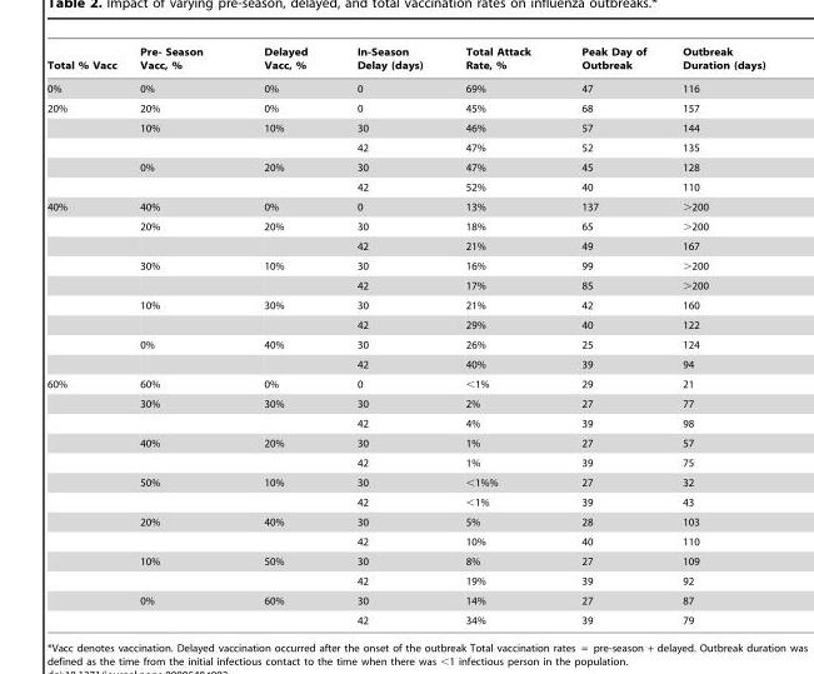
<table><thead><tr><td>Total % Vacc</td><td>Pre- Season Vacc, %</td><td>Delayed Vacc, %</td><td>In-Season Delay (days)</td><td>Total Attack Rate, %</td><td>Peak Day of Outbreak</td><td>Outbreak Duration (days)</td></tr></thead><tbody><tr><td>0%</td><td>0%</td><td>0%</td><td>0</td><td>69%</td><td>47</td><td>116</td></tr><tr><td rowspan="5">20%</td><td>20%</td><td>0%</td><td>0</td><td>45%</td><td>68</td><td>157</td></tr><tr><td>10%</td><td>10%</td><td>30</td><td>46%</td><td>57</td><td>144</td></tr><tr><td></td><td></td><td>42</td><td>47%</td><td>52</td><td>135</td></tr><tr><td>0%</td><td>20%</td><td>30</td><td>47%</td><td>45</td><td>128</td></tr><tr><td></td><td></td><td>42</td><td>52%</td><td>40</td><td>110</td></tr><tr><td rowspan="9">40%</td><td>40%</td><td>0%</td><td>0</td><td>13%</td><td>137</td><td>&gt;200</td></tr><tr><td>20%</td><td>20%</td><td>30</td><td>18%</td><td>65</td><td>&gt;200</td></tr><tr><td></td><td></td><td>42</td><td>21%</td><td>49</td><td>167</td></tr><tr><td>30%</td><td>10%</td><td>30</td><td>16%</td><td>99</td><td>&gt;200</td></tr><tr><td></td><td></td><td>42</td><td>17%</td><td>85</td><td>&gt;200</td></tr><tr><td>10%</td><td>30%</td><td>30</td><td>21%</td><td>42</td><td>160</td></tr><tr><td></td><td></td><td>42</td><td>29%</td><td>40</td><td>122</td></tr><tr><td>0%</td><td>40%</td><td>30</td><td>26%</td><td>25</td><td>124</td></tr><tr><td></td><td></td><td>42</td><td>40%</td><td>39</td><td>94</td></tr><tr><td rowspan="13">60%</td><td>60%</td><td>0%</td><td>0</td><td>&lt;1%</td><td>29</td><td>21</td></tr><tr><td>30%</td><td>30%</td><td>30</td><td>2%</td><td>27</td><td>77</td></tr><tr><td></td><td></td><td>42</td><td>4%</td><td>39</td><td>98</td></tr><tr><td>40%</td><td>20%</td><td>30</td><td>1%</td><td>27</td><td>57</td></tr><tr><td></td><td></td><td>42</td><td>1%</td><td>39</td><td>75</td></tr><tr><td>50%</td><td>10%</td><td>30</td><td>&lt;1%%</td><td>27</td><td>32</td></tr><tr><td></td><td></td><td>42</td><td>&lt;1%</td><td>39</td><td>43</td></tr><tr><td>20%</td><td>40%</td><td>30</td><td>5%</td><td>28</td><td>103</td></tr><tr><td></td><td></td><td>42</td><td>10%</td><td>40</td><td>110</td></tr><tr><td>10%</td><td>50%</td><td>30</td><td>8%</td><td>27</td><td>109</td></tr><tr><td></td><td></td><td>42</td><td>19%</td><td>39</td><td>92</td></tr><tr><td>0%</td><td>60%</td><td>30</td><td>14%</td><td>27</td><td>87</td></tr><tr><td></td><td></td><td>42</td><td>34%</td><td>39</td><td>79</td></tr></tbody></table>